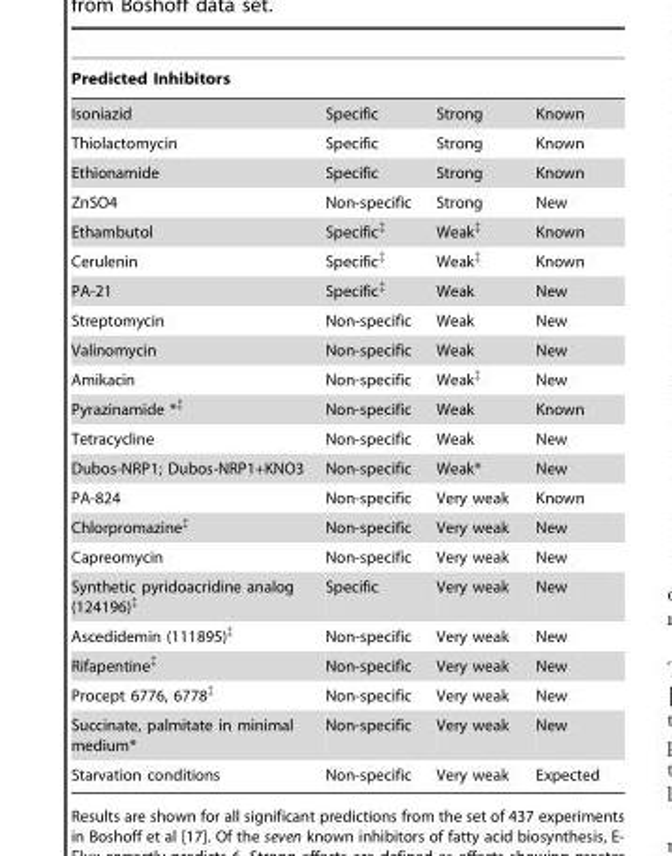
<table><thead><tr><td colspan="4">Predicted Inhibitors</td></tr><tr><td>Isoniazid</td><td>Specific</td><td>Strong</td><td>Known</td></tr></thead><tbody><tr><td>Thiolactomycin</td><td>Specific</td><td>Strong</td><td>Known</td></tr><tr><td>Ethionamide</td><td>Specific</td><td>Strong</td><td>Known</td></tr><tr><td>ZnSO4</td><td>Non-specific</td><td>Strong</td><td>New</td></tr><tr><td>Ethambutol</td><td>Specific‡</td><td>Weak‡</td><td>Known</td></tr><tr><td>Cerulenin</td><td>Specific‡</td><td>Weak‡</td><td>Known</td></tr><tr><td>PA-21</td><td>Specific‡</td><td>Weak</td><td>New</td></tr><tr><td>Streptomycin</td><td>Non-specific</td><td>Weak</td><td>New</td></tr><tr><td>Valinomycin</td><td>Non-specific</td><td>Weak</td><td>New</td></tr><tr><td>Amikacin</td><td>Non-specific</td><td>Weak‡</td><td>New</td></tr><tr><td>Pyrazinamide *‡</td><td>Non-specific</td><td>Weak</td><td>Known</td></tr><tr><td>Tetracycline</td><td>Non-specific</td><td>Weak</td><td>New</td></tr><tr><td>Dubos-NRP1; Dubos-NRP1+KNO3</td><td>Non-specific</td><td>Weak*</td><td>New</td></tr><tr><td>PA-824</td><td>Non-specific</td><td>Very weak</td><td>Known</td></tr><tr><td>Chlorpromazine‡</td><td>Non-specific</td><td>Very weak</td><td>New</td></tr><tr><td>Capreomycin</td><td>Non-specific</td><td>Very weak</td><td>New</td></tr><tr><td>Synthetic pyridoacridine analog (124196)‡</td><td>Specific</td><td>Very weak</td><td>New</td></tr><tr><td>Ascedidemin (111895)‡</td><td>Non-specific</td><td>Very weak</td><td>New</td></tr><tr><td>Rifapentine‡</td><td>Non-specific</td><td>Very weak</td><td>New</td></tr><tr><td>Procept 6776, 6778‡</td><td>Non-specific</td><td>Very weak</td><td>New</td></tr><tr><td>Succinate, palmitate in minimal medium*</td><td>Non-specific</td><td>Very weak</td><td>New</td></tr><tr><td>Starvation conditions</td><td>Non-specific</td><td>Very weak</td><td>Expected</td></tr></tbody></table>